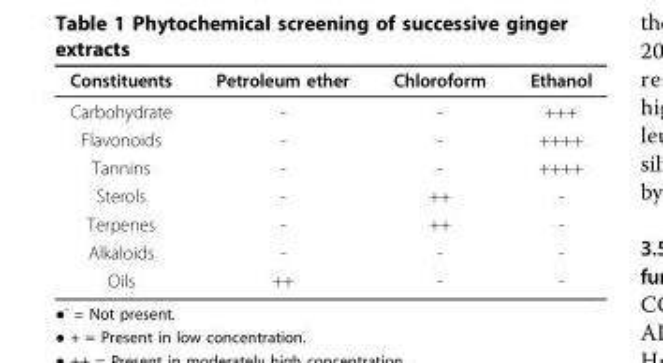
<table><thead><tr><td>Constituents</td><td>Petroleum ether</td><td>Chloroform</td><td>Ethanol</td></tr></thead><tbody><tr><td>Carbohydrate</td><td>-</td><td>-</td><td>+++</td></tr><tr><td>Flavonoids</td><td>-</td><td>-</td><td>++++</td></tr><tr><td>Tannins</td><td>-</td><td>-</td><td>++++</td></tr><tr><td>Sterols</td><td>-</td><td>++</td><td>-</td></tr><tr><td>Terpenes</td><td>-</td><td>++</td><td>-</td></tr><tr><td>Alkaloids</td><td>-</td><td>-</td><td>-</td></tr><tr><td>Oils</td><td>++</td><td>-</td><td>-</td></tr></tbody></table>